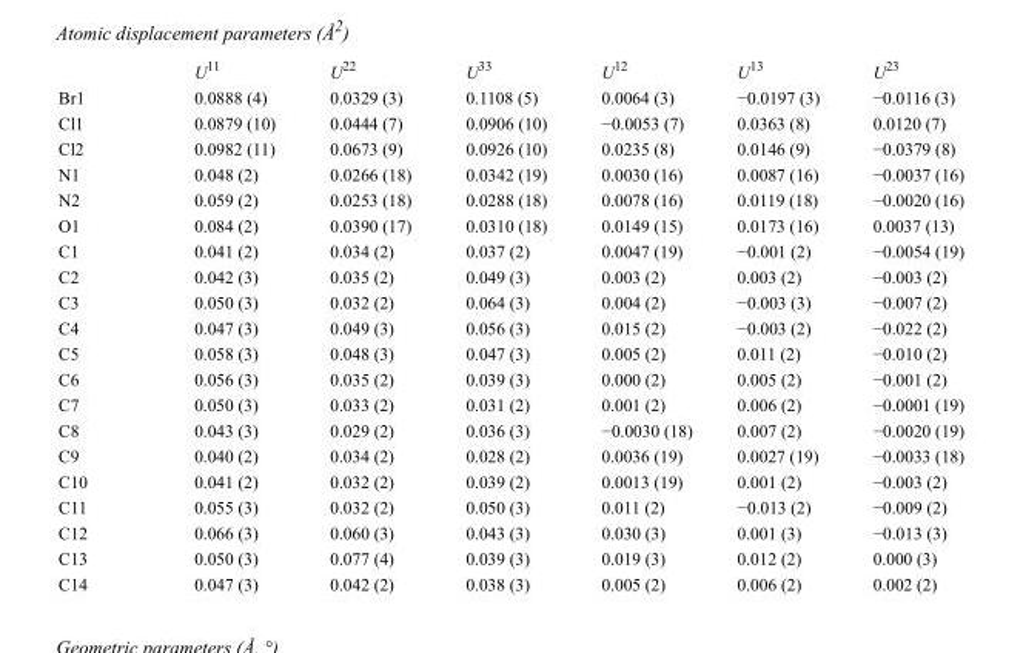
<table><thead><tr><td></td><td>U<sup>11</sup></td><td>U<sup>22</sup></td><td>U<sup>33</sup></td><td>U<sup>12</sup></td><td>U<sup>13</sup></td><td>U<sup>23</sup></td></tr></thead><tbody><tr><td>Br1</td><td>0.0888 (4)</td><td>0.0329 (3)</td><td>0.1108 (5)</td><td>0.0064 (3)</td><td>−0.0197 (3)</td><td>−0.0116 (3)</td></tr><tr><td>Cl1</td><td>0.0879 (10)</td><td>0.0444 (7)</td><td>0.0906 (10)</td><td>−0.0053 (7)</td><td>0.0363 (8)</td><td>0.0120 (7)</td></tr><tr><td>Cl2</td><td>0.0982 (11)</td><td>0.0673 (9)</td><td>0.0926 (10)</td><td>0.0235 (8)</td><td>0.0146 (9)</td><td>−0.0379 (8)</td></tr><tr><td>N1</td><td>0.048 (2)</td><td>0.0266 (18)</td><td>0.0342 (19)</td><td>0.0030 (16)</td><td>0.0087 (16)</td><td>−0.0037 (16)</td></tr><tr><td>N2</td><td>0.059 (2)</td><td>0.0253 (18)</td><td>0.0288 (18)</td><td>0.0078 (16)</td><td>0.0119 (18)</td><td>−0.0020 (16)</td></tr><tr><td>O1</td><td>0.084 (2)</td><td>0.0390 (17)</td><td>0.0310 (18)</td><td>0.0149 (15)</td><td>0.0173 (16)</td><td>0.0037 (13)</td></tr><tr><td>C1</td><td>0.041 (2)</td><td>0.034 (2)</td><td>0.037 (2)</td><td>0.0047 (19)</td><td>−0.001 (2)</td><td>−0.0054 (19)</td></tr><tr><td>C2</td><td>0.042 (3)</td><td>0.035 (2)</td><td>0.049 (3)</td><td>0.003 (2)</td><td>0.003 (2)</td><td>−0.003 (2)</td></tr><tr><td>C3</td><td>0.050 (3)</td><td>0.032 (2)</td><td>0.064 (3)</td><td>0.004 (2)</td><td>−0.003 (3)</td><td>−0.007 (2)</td></tr><tr><td>C4</td><td>0.047 (3)</td><td>0.049 (3)</td><td>0.056 (3)</td><td>0.015 (2)</td><td>−0.003 (2)</td><td>−0.022 (2)</td></tr><tr><td>C5</td><td>0.058 (3)</td><td>0.048 (3)</td><td>0.047 (3)</td><td>0.005 (2)</td><td>0.011 (2)</td><td>−0.010 (2)</td></tr><tr><td>C6</td><td>0.056 (3)</td><td>0.035 (2)</td><td>0.039 (3)</td><td>0.000 (2)</td><td>0.005 (2)</td><td>−0.001 (2)</td></tr><tr><td>C7</td><td>0.050 (3)</td><td>0.033 (2)</td><td>0.031 (2)</td><td>0.001 (2)</td><td>0.006 (2)</td><td>−0.0001 (19)</td></tr><tr><td>C8</td><td>0.043 (3)</td><td>0.029 (2)</td><td>0.036 (3)</td><td>−0.0030 (18)</td><td>0.007 (2)</td><td>−0.0020 (19)</td></tr><tr><td>C9</td><td>0.040 (2)</td><td>0.034 (2)</td><td>0.028 (2)</td><td>0.0036 (19)</td><td>0.0027 (19)</td><td>−0.0033 (18)</td></tr><tr><td>C10</td><td>0.041 (2)</td><td>0.032 (2)</td><td>0.039 (2)</td><td>0.0013 (19)</td><td>0.001 (2)</td><td>−0.003 (2)</td></tr><tr><td>C11</td><td>0.055 (3)</td><td>0.032 (2)</td><td>0.050 (3)</td><td>0.011 (2)</td><td>−0.013 (2)</td><td>−0.009 (2)</td></tr><tr><td>C12</td><td>0.066 (3)</td><td>0.060 (3)</td><td>0.043 (3)</td><td>0.030 (3)</td><td>0.001 (3)</td><td>−0.013 (3)</td></tr><tr><td>C13</td><td>0.050 (3)</td><td>0.077 (4)</td><td>0.039 (3)</td><td>0.019 (3)</td><td>0.012 (2)</td><td>0.000 (3)</td></tr><tr><td>C14</td><td>0.047 (3)</td><td>0.042 (2)</td><td>0.038 (3)</td><td>0.005 (2)</td><td>0.006 (2)</td><td>0.002 (2)</td></tr></tbody></table>